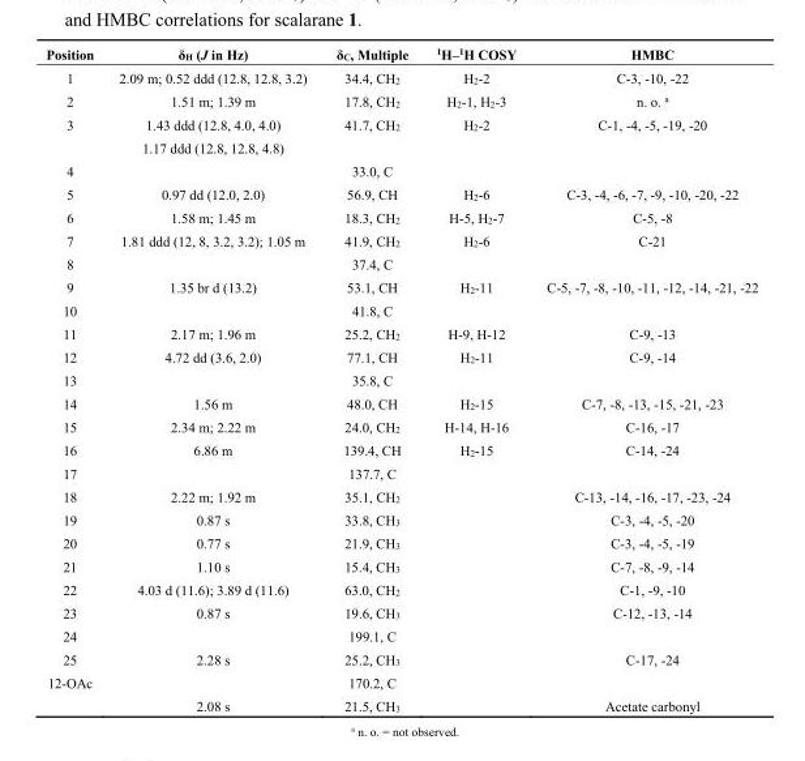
<table><thead><tr><td>Position</td><td>δ<sub>H</sub> (J in Hz)</td><td>δ<sub>C</sub>, Multiple</td><td><sup>1</sup>H–<sup>1</sup>H COSY</td><td>HMBC</td></tr></thead><tbody><tr><td>1</td><td>2.09 m; 0.52 ddd (12.8, 12.8, 3.2)</td><td>34.4, CH<sub>2</sub></td><td>H<sub>2</sub>-2</td><td>C-3, -10, -22</td></tr><tr><td>2</td><td>1.51 m; 1.39 m</td><td>17.8, CH<sub>2</sub></td><td>H<sub>2</sub>-1, H<sub>2</sub>-3</td><td>n. o. <sup>a</sup></td></tr><tr><td rowspan="2">3</td><td>1.43 ddd (12.8, 4.0, 4.0)</td><td>41.7, CH<sub>2</sub></td><td>H<sub>2</sub>-2</td><td>C-1, -4, -5, -19, -20</td></tr><tr><td>1.17 ddd (12.8, 12.8, 4.8)</td><td></td><td></td><td></td></tr><tr><td>4</td><td></td><td>33.0, C</td><td></td><td></td></tr><tr><td>5</td><td>0.97 dd (12.0, 2.0)</td><td>56.9, CH</td><td>H<sub>2</sub>-6</td><td>C-3, -4, -6, -7, -9, -10, -20, -22</td></tr><tr><td>6</td><td>1.58 m; 1.45 m</td><td>18.3, CH<sub>2</sub></td><td>H-5, H<sub>2</sub>-7</td><td>C-5, -8</td></tr><tr><td>7</td><td>1.81 ddd (12, 8, 3.2, 3.2); 1.05 m</td><td>41.9, CH<sub>2</sub></td><td>H<sub>2</sub>-6</td><td>C-21</td></tr><tr><td>8</td><td></td><td>37.4, C</td><td></td><td></td></tr><tr><td>9</td><td>1.35 br d (13.2)</td><td>53.1, CH</td><td>H<sub>2</sub>-11</td><td>C-5, -7, -8, -10, -11, -12, -14, -21, -22</td></tr><tr><td>10</td><td></td><td>41.8, C</td><td></td><td></td></tr><tr><td>11</td><td>2.17 m; 1.96 m</td><td>25.2, CH<sub>2</sub></td><td>H-9, H-12</td><td>C-9, -13</td></tr><tr><td>12</td><td>4.72 dd (3.6, 2.0)</td><td>77.1, CH</td><td>H<sub>2</sub>-11</td><td>C-9, -14</td></tr><tr><td>13</td><td></td><td>35.8, C</td><td></td><td></td></tr><tr><td>14</td><td>1.56 m</td><td>48.0, CH</td><td>H<sub>2</sub>-15</td><td>C-7, -8, -13, -15, -21, -23</td></tr><tr><td>15</td><td>2.34 m; 2.22 m</td><td>24.0, CH<sub>2</sub></td><td>H-14, H-16</td><td>C-16, -17</td></tr><tr><td>16</td><td>6.86 m</td><td>139.4, CH</td><td>H<sub>2</sub>-15</td><td>C-14, -24</td></tr><tr><td>17</td><td></td><td>137.7, C</td><td></td><td></td></tr><tr><td>18</td><td>2.22 m; 1.92 m</td><td>35.1, CH<sub>2</sub></td><td></td><td>C-13, -14, -16, -17, -23, -24</td></tr><tr><td>19</td><td>0.87 s</td><td>33.8, CH<sub>3</sub></td><td></td><td>C-3, -4, -5, -20</td></tr><tr><td>20</td><td>0.77 s</td><td>21.9, CH<sub>3</sub></td><td></td><td>C-3, -4, -5, -19</td></tr><tr><td>21</td><td>1.10 s</td><td>15.4, CH<sub>3</sub></td><td></td><td>C-7, -8, -9, -14</td></tr><tr><td>22</td><td>4.03 d (11.6); 3.89 d (11.6)</td><td>63.0, CH<sub>2</sub></td><td></td><td>C-1, -9, -10</td></tr><tr><td>23</td><td>0.87 s</td><td>19.6, CH<sub>3</sub></td><td></td><td>C-12, -13, -14</td></tr><tr><td>24</td><td></td><td>199.1, C</td><td></td><td></td></tr><tr><td>25</td><td>2.28 s</td><td>25.2, CH<sub>3</sub></td><td></td><td>C-17, -24</td></tr><tr><td rowspan="2">12-OAc</td><td></td><td>170.2, C</td><td></td><td></td></tr><tr><td>2.08 s</td><td>21.5, CH<sub>3</sub></td><td></td><td>Acetate carbonyl</td></tr></tbody></table>